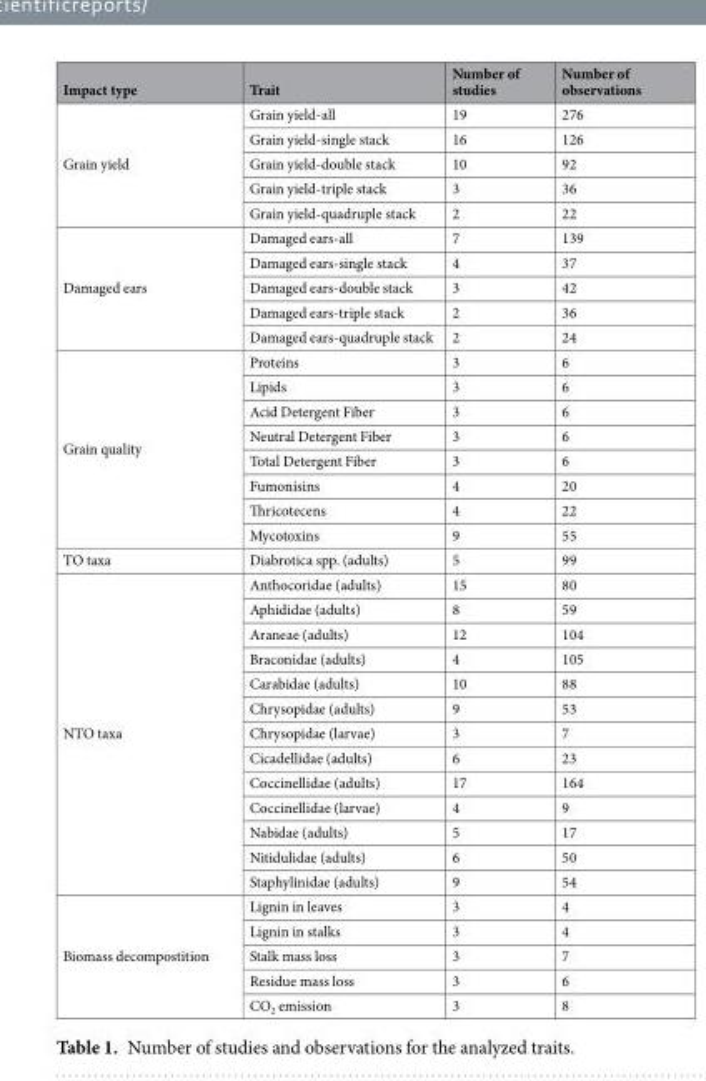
<table><thead><tr><td>Impact type</td><td>Trait</td><td>Number of studies</td><td>Number of observations</td></tr></thead><tbody><tr><td rowspan="5">Grain yield</td><td>Grain yield-all</td><td>19</td><td>276</td></tr><tr><td>Grain yield-single stack</td><td>16</td><td>126</td></tr><tr><td>Grain yield-double stack</td><td>10</td><td>92</td></tr><tr><td>Grain yield-triple stack</td><td>3</td><td>36</td></tr><tr><td>Grain yield-quadruple stack</td><td>2</td><td>22</td></tr><tr><td rowspan="5">Damaged ears</td><td>Damaged ears-all</td><td>7</td><td>139</td></tr><tr><td>Damaged ears-single stack</td><td>4</td><td>37</td></tr><tr><td>Damaged ears-double stack</td><td>3</td><td>42</td></tr><tr><td>Damaged ears-triple stack</td><td>2</td><td>36</td></tr><tr><td>Damaged ears-quadruple stack</td><td>2</td><td>24</td></tr><tr><td rowspan="8">Grain quality</td><td>Proteins</td><td>3</td><td>6</td></tr><tr><td>Lipids</td><td>3</td><td>6</td></tr><tr><td>Acid Detergent Fiber</td><td>3</td><td>6</td></tr><tr><td>Neutral Detergent Fiber</td><td>3</td><td>6</td></tr><tr><td>Total Detergent Fiber</td><td>3</td><td>6</td></tr><tr><td>Fumonisins</td><td>4</td><td>20</td></tr><tr><td>Thricotecens</td><td>4</td><td>22</td></tr><tr><td>Mycotoxins</td><td>9</td><td>55</td></tr><tr><td>TO taxa</td><td>Diabrotica spp. (adults)</td><td>5</td><td>99</td></tr><tr><td rowspan="13">NTO taxa</td><td>Anthocoridae (adults)</td><td>15</td><td>80</td></tr><tr><td>Aphididae (adults)</td><td>8</td><td>59</td></tr><tr><td>Araneae (adults)</td><td>12</td><td>104</td></tr><tr><td>Braconidae (adults)</td><td>4</td><td>105</td></tr><tr><td>Carabidae (adults)</td><td>10</td><td>88</td></tr><tr><td>Chrysopidae (adults)</td><td>9</td><td>53</td></tr><tr><td>Chrysopidae (larvae)</td><td>3</td><td>7</td></tr><tr><td>Cicadellidae (adults)</td><td>6</td><td>23</td></tr><tr><td>Coccinellidae (adults)</td><td>17</td><td>164</td></tr><tr><td>Coccinellidae (larvae)</td><td>4</td><td>9</td></tr><tr><td>Nabidae (adults)</td><td>5</td><td>17</td></tr><tr><td>Nitidulidae (adults)</td><td>6</td><td>50</td></tr><tr><td>Staphylinidae (adults)</td><td>9</td><td>54</td></tr><tr><td rowspan="5">Biomass decompostition</td><td>Lignin in leaves</td><td>3</td><td>4</td></tr><tr><td>Lignin in stalks</td><td>3</td><td>4</td></tr><tr><td>Stalk mass loss</td><td>3</td><td>7</td></tr><tr><td>Residue mass loss</td><td>3</td><td>6</td></tr><tr><td>CO<sub>2</sub> emission</td><td>3</td><td>8</td></tr></tbody></table>